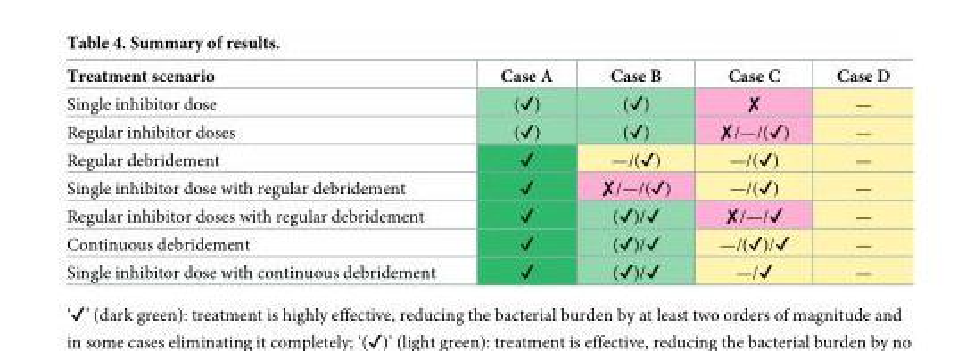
<table><thead><tr><td>Treatment scenario</td><td>Case A</td><td>Case B</td><td>Case C</td><td>Case D</td></tr></thead><tbody><tr><td>Single inhibitor dose</td><td>(✔)</td><td>(✔)</td><td>✘</td><td>—</td></tr><tr><td>Regular inhibitor doses</td><td>(✔)</td><td>(✔)</td><td>✘/—/(✔)</td><td>—</td></tr><tr><td>Regular debridement</td><td>✔</td><td>—/(✔)</td><td>—/(✔)</td><td>—</td></tr><tr><td>Single inhibitor dose with regular debridement</td><td>✔</td><td>✘/—/(✔)</td><td>—/(✔)</td><td>—</td></tr><tr><td>Regular inhibitor doses with regular debridement</td><td>✔</td><td>(✔)/✔</td><td>✘/—/✔</td><td>—</td></tr><tr><td>Continuous debridement</td><td>✔</td><td>(✔)/✔</td><td>—/(✔)/✔</td><td>—</td></tr><tr><td>Single inhibitor dose with continuous debridement</td><td>✔</td><td>(✔)/✔</td><td>—/✔</td><td>—</td></tr></tbody></table>